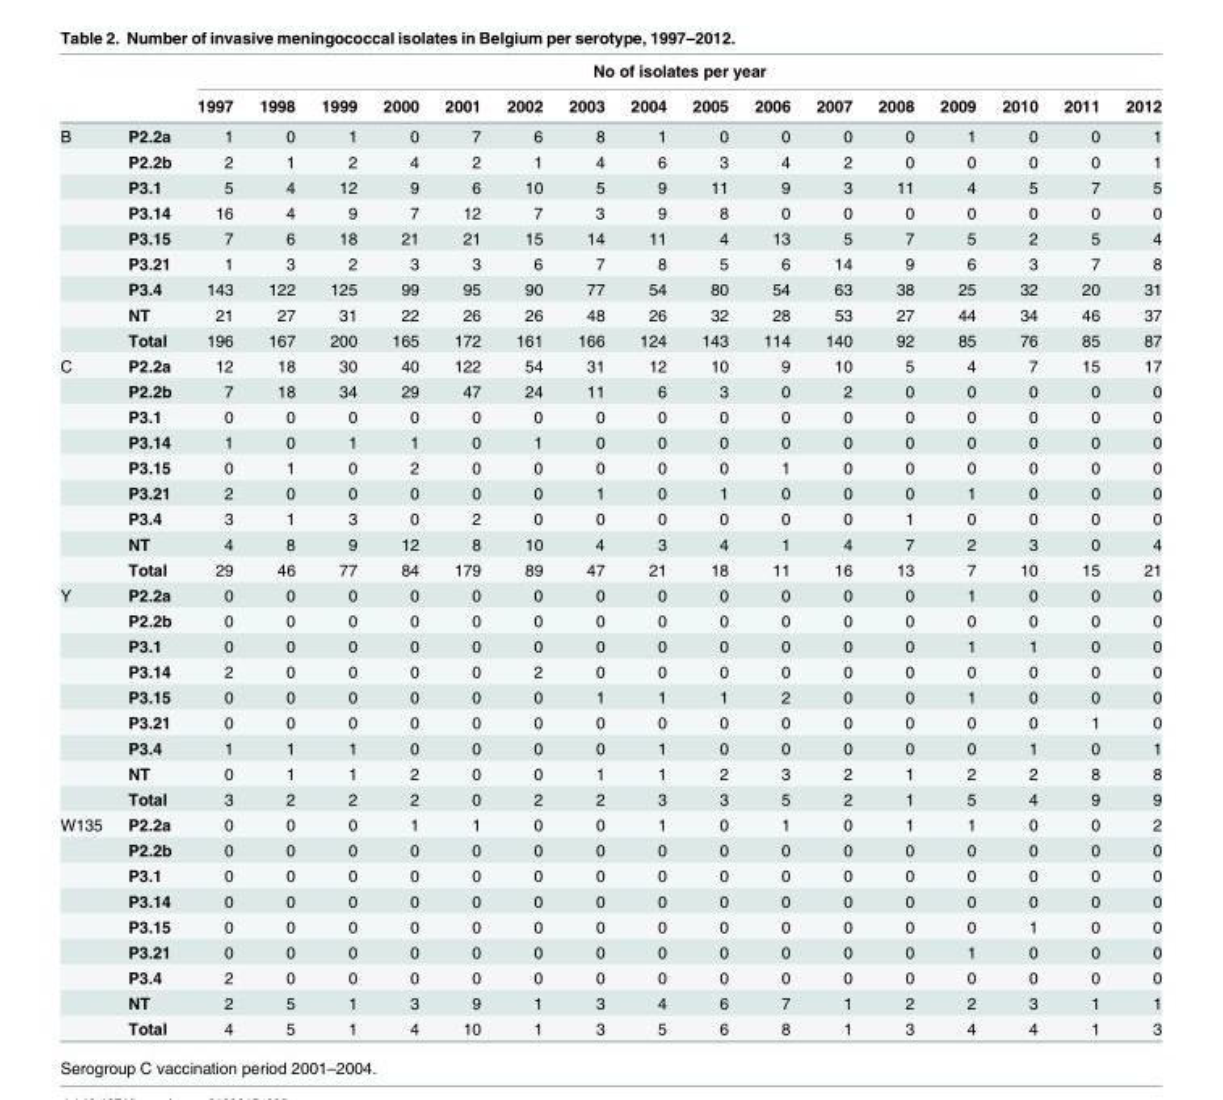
<table><thead><tr><td rowspan="2"></td><td rowspan="2"></td><td colspan="16">No of isolates per year</td></tr><tr><td>1997</td><td>1998</td><td>1999</td><td>2000</td><td>2001</td><td>2002</td><td>2003</td><td>2004</td><td>2005</td><td>2006</td><td>2007</td><td>2008</td><td>2009</td><td>2010</td><td>2011</td><td>2012</td></tr></thead><tbody><tr><td rowspan="9">B</td><td>P2.2a</td><td>1</td><td>0</td><td>1</td><td>0</td><td>7</td><td>6</td><td>8</td><td>1</td><td>0</td><td>0</td><td>0</td><td>0</td><td>1</td><td>0</td><td>0</td><td>1</td></tr><tr><td>P2.2b</td><td>2</td><td>1</td><td>2</td><td>4</td><td>2</td><td>1</td><td>4</td><td>6</td><td>3</td><td>4</td><td>2</td><td>0</td><td>0</td><td>0</td><td>0</td><td>1</td></tr><tr><td>P3.1</td><td>5</td><td>4</td><td>12</td><td>9</td><td>6</td><td>10</td><td>5</td><td>9</td><td>11</td><td>9</td><td>3</td><td>11</td><td>4</td><td>5</td><td>7</td><td>5</td></tr><tr><td>P3.14</td><td>16</td><td>4</td><td>9</td><td>7</td><td>12</td><td>7</td><td>3</td><td>9</td><td>8</td><td>0</td><td>0</td><td>0</td><td>0</td><td>0</td><td>0</td><td>0</td></tr><tr><td>P3.15</td><td>7</td><td>6</td><td>18</td><td>21</td><td>21</td><td>15</td><td>14</td><td>11</td><td>4</td><td>13</td><td>5</td><td>7</td><td>5</td><td>2</td><td>5</td><td>4</td></tr><tr><td>P3.21</td><td>1</td><td>3</td><td>2</td><td>3</td><td>3</td><td>6</td><td>7</td><td>8</td><td>5</td><td>6</td><td>14</td><td>9</td><td>6</td><td>3</td><td>7</td><td>8</td></tr><tr><td>P3.4</td><td>143</td><td>122</td><td>125</td><td>99</td><td>95</td><td>90</td><td>77</td><td>54</td><td>80</td><td>54</td><td>63</td><td>38</td><td>25</td><td>32</td><td>20</td><td>31</td></tr><tr><td>NT</td><td>21</td><td>27</td><td>31</td><td>22</td><td>26</td><td>26</td><td>48</td><td>26</td><td>32</td><td>28</td><td>53</td><td>27</td><td>44</td><td>34</td><td>46</td><td>37</td></tr><tr><td>Total</td><td>196</td><td>167</td><td>200</td><td>165</td><td>172</td><td>161</td><td>166</td><td>124</td><td>143</td><td>114</td><td>140</td><td>92</td><td>85</td><td>76</td><td>85</td><td>87</td></tr><tr><td rowspan="9">C</td><td>P2.2a</td><td>12</td><td>18</td><td>30</td><td>40</td><td>122</td><td>54</td><td>31</td><td>12</td><td>10</td><td>9</td><td>10</td><td>5</td><td>4</td><td>7</td><td>15</td><td>17</td></tr><tr><td>P2.2b</td><td>7</td><td>18</td><td>34</td><td>29</td><td>47</td><td>24</td><td>11</td><td>6</td><td>3</td><td>0</td><td>2</td><td>0</td><td>0</td><td>0</td><td>0</td><td>0</td></tr><tr><td>P3.1</td><td>0</td><td>0</td><td>0</td><td>0</td><td>0</td><td>0</td><td>0</td><td>0</td><td>0</td><td>0</td><td>0</td><td>0</td><td>0</td><td>0</td><td>0</td><td>0</td></tr><tr><td>P3.14</td><td>1</td><td>0</td><td>1</td><td>1</td><td>0</td><td>1</td><td>0</td><td>0</td><td>0</td><td>0</td><td>0</td><td>0</td><td>0</td><td>0</td><td>0</td><td>0</td></tr><tr><td>P3.15</td><td>0</td><td>1</td><td>0</td><td>2</td><td>0</td><td>0</td><td>0</td><td>0</td><td>0</td><td>1</td><td>0</td><td>0</td><td>0</td><td>0</td><td>0</td><td>0</td></tr><tr><td>P3.21</td><td>2</td><td>0</td><td>0</td><td>0</td><td>0</td><td>0</td><td>1</td><td>0</td><td>1</td><td>0</td><td>0</td><td>0</td><td>1</td><td>0</td><td>0</td><td>0</td></tr><tr><td>P3.4</td><td>3</td><td>1</td><td>3</td><td>0</td><td>2</td><td>0</td><td>0</td><td>0</td><td>0</td><td>0</td><td>0</td><td>1</td><td>0</td><td>0</td><td>0</td><td>0</td></tr><tr><td>NT</td><td>4</td><td>8</td><td>9</td><td>12</td><td>8</td><td>10</td><td>4</td><td>3</td><td>4</td><td>1</td><td>4</td><td>7</td><td>2</td><td>3</td><td>0</td><td>4</td></tr><tr><td>Total</td><td>29</td><td>46</td><td>77</td><td>84</td><td>179</td><td>89</td><td>47</td><td>21</td><td>18</td><td>11</td><td>16</td><td>13</td><td>7</td><td>10</td><td>15</td><td>21</td></tr><tr><td rowspan="9">Y</td><td>P2.2a</td><td>0</td><td>0</td><td>0</td><td>0</td><td>0</td><td>0</td><td>0</td><td>0</td><td>0</td><td>0</td><td>0</td><td>0</td><td>1</td><td>0</td><td>0</td><td>0</td></tr><tr><td>P2.2b</td><td>0</td><td>0</td><td>0</td><td>0</td><td>0</td><td>0</td><td>0</td><td>0</td><td>0</td><td>0</td><td>0</td><td>0</td><td>0</td><td>0</td><td>0</td><td>0</td></tr><tr><td>P3.1</td><td>0</td><td>0</td><td>0</td><td>0</td><td>0</td><td>0</td><td>0</td><td>0</td><td>0</td><td>0</td><td>0</td><td>0</td><td>1</td><td>1</td><td>0</td><td>0</td></tr><tr><td>P3.14</td><td>2</td><td>0</td><td>0</td><td>0</td><td>0</td><td>2</td><td>0</td><td>0</td><td>0</td><td>0</td><td>0</td><td>0</td><td>0</td><td>0</td><td>0</td><td>0</td></tr><tr><td>P3.15</td><td>0</td><td>0</td><td>0</td><td>0</td><td>0</td><td>0</td><td>1</td><td>1</td><td>1</td><td>2</td><td>0</td><td>0</td><td>1</td><td>0</td><td>0</td><td>0</td></tr><tr><td>P3.21</td><td>0</td><td>0</td><td>0</td><td>0</td><td>0</td><td>0</td><td>0</td><td>0</td><td>0</td><td>0</td><td>0</td><td>0</td><td>0</td><td>0</td><td>1</td><td>0</td></tr><tr><td>P3.4</td><td>1</td><td>1</td><td>1</td><td>0</td><td>0</td><td>0</td><td>0</td><td>1</td><td>0</td><td>0</td><td>0</td><td>0</td><td>0</td><td>1</td><td>0</td><td>1</td></tr><tr><td>NT</td><td>0</td><td>1</td><td>1</td><td>2</td><td>0</td><td>0</td><td>1</td><td>1</td><td>2</td><td>3</td><td>2</td><td>1</td><td>2</td><td>2</td><td>8</td><td>8</td></tr><tr><td>Total</td><td>3</td><td>2</td><td>2</td><td>2</td><td>0</td><td>2</td><td>2</td><td>3</td><td>3</td><td>5</td><td>2</td><td>1</td><td>5</td><td>4</td><td>9</td><td>9</td></tr><tr><td rowspan="9">W135</td><td>P2.2a</td><td>0</td><td>0</td><td>0</td><td>1</td><td>1</td><td>0</td><td>0</td><td>1</td><td>0</td><td>1</td><td>0</td><td>1</td><td>1</td><td>0</td><td>0</td><td>2</td></tr><tr><td>P2.2b</td><td>0</td><td>0</td><td>0</td><td>0</td><td>0</td><td>0</td><td>0</td><td>0</td><td>0</td><td>0</td><td>0</td><td>0</td><td>0</td><td>0</td><td>0</td><td>0</td></tr><tr><td>P3.1</td><td>0</td><td>0</td><td>0</td><td>0</td><td>0</td><td>0</td><td>0</td><td>0</td><td>0</td><td>0</td><td>0</td><td>0</td><td>0</td><td>0</td><td>0</td><td>0</td></tr><tr><td>P3.14</td><td>0</td><td>0</td><td>0</td><td>0</td><td>0</td><td>0</td><td>0</td><td>0</td><td>0</td><td>0</td><td>0</td><td>0</td><td>0</td><td>0</td><td>0</td><td>0</td></tr><tr><td>P3.15</td><td>0</td><td>0</td><td>0</td><td>0</td><td>0</td><td>0</td><td>0</td><td>0</td><td>0</td><td>0</td><td>0</td><td>0</td><td>0</td><td>1</td><td>0</td><td>0</td></tr><tr><td>P3.21</td><td>0</td><td>0</td><td>0</td><td>0</td><td>0</td><td>0</td><td>0</td><td>0</td><td>0</td><td>0</td><td>0</td><td>0</td><td>1</td><td>0</td><td>0</td><td>0</td></tr><tr><td>P3.4</td><td>2</td><td>0</td><td>0</td><td>0</td><td>0</td><td>0</td><td>0</td><td>0</td><td>0</td><td>0</td><td>0</td><td>0</td><td>0</td><td>0</td><td>0</td><td>0</td></tr><tr><td>NT</td><td>2</td><td>5</td><td>1</td><td>3</td><td>9</td><td>1</td><td>3</td><td>4</td><td>6</td><td>7</td><td>1</td><td>2</td><td>2</td><td>3</td><td>1</td><td>1</td></tr><tr><td>Total</td><td>4</td><td>5</td><td>1</td><td>4</td><td>10</td><td>1</td><td>3</td><td>5</td><td>6</td><td>8</td><td>1</td><td>3</td><td>4</td><td>4</td><td>1</td><td>3</td></tr></tbody></table>